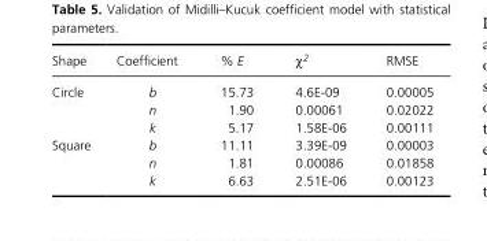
<table><thead><tr><td>Shape</td><td>Coefficient</td><td>% E</td><td>χ<sup>2</sup></td><td>RMSE</td></tr></thead><tbody><tr><td rowspan="3">Circle</td><td>b</td><td>15.73</td><td>4.6E- 09</td><td>0.00005</td></tr><tr><td>n</td><td>1.90</td><td>0.00061</td><td>0.02022</td></tr><tr><td>k</td><td>5.17</td><td>1.58E- 06</td><td>0.00111</td></tr><tr><td rowspan="3">Square</td><td>b</td><td>11.11</td><td>3.39E- 09</td><td>0.00003</td></tr><tr><td>n</td><td>1.81</td><td>0.00086</td><td>0.01858</td></tr><tr><td>k</td><td>6.63</td><td>2.51E- 06</td><td>0.00123</td></tr></tbody></table>